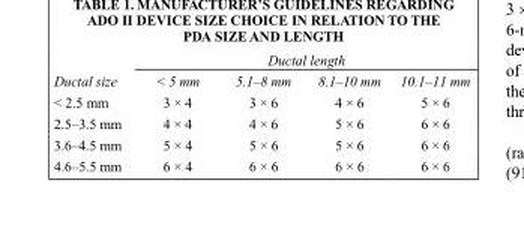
<table><thead><tr><td rowspan="2">Ductal size</td><td colspan="4">Ductal length</td></tr><tr><td>&lt; 5 mm</td><td>5.1–8 mm</td><td>8.1–10 mm</td><td>10.1–11 mm</td></tr></thead><tbody><tr><td>&lt; 2.5 mm</td><td>3 × 4</td><td>3 × 6</td><td>4 × 6</td><td>5 × 6</td></tr><tr><td>2.5–3.5 mm</td><td>4 × 4</td><td>4 × 6</td><td>5 × 6</td><td>6 × 6</td></tr><tr><td>3.6–4.5 mm</td><td>5 × 4</td><td>5 × 6</td><td>5 × 6</td><td>6 × 6</td></tr><tr><td>4.6–5.5 mm</td><td>6 × 4</td><td>6 × 6</td><td>6 × 6</td><td>6 × 6</td></tr></tbody></table>